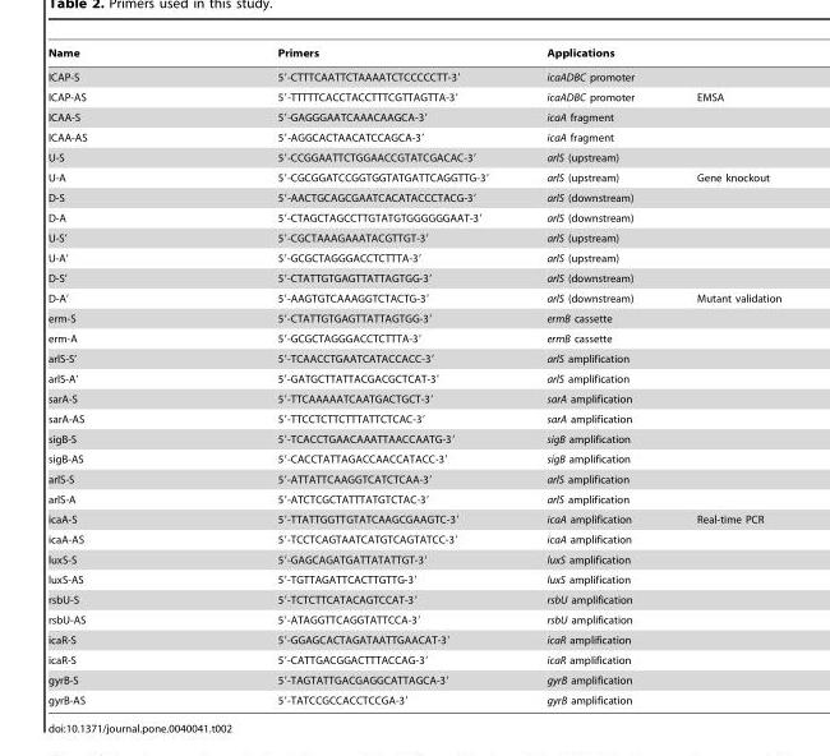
<table><thead><tr><td rowspan="2">Name ICAP-S</td><td rowspan="2">Primers 5′-CTTTCAATTCTAAAATCTCCCCCTT-3′</td><td colspan="2">Applications</td></tr><tr><td>icaADBC promoter</td><td></td></tr></thead><tbody><tr><td>ICAP-AS</td><td>5′-TTTTTCACCTACCTTTCGTTAGTTA-3′</td><td>icaADBC promoter</td><td>EMSA</td></tr><tr><td>ICAA-S</td><td>5′-GAGGGAATCAAACAAGCA-3′</td><td>icaA fragment</td><td></td></tr><tr><td>ICAA-AS</td><td>5′-AGGCACTAACATCCAGCA-3′</td><td>icaA fragment</td><td></td></tr><tr><td>U-S</td><td>5′-CCGGAATTCTGGAACCGTATCGACAC-3′</td><td>arlS (upstream)</td><td></td></tr><tr><td>U-A</td><td>5′-CGCGGATCCGGTGGTATGATTCAGGTTG-3′</td><td>arlS (upstream)</td><td>Gene knockout</td></tr><tr><td>D-S</td><td>5′-AACTGCAGCGAATCACATACCCTACG-3′</td><td>arlS (downstream)</td><td></td></tr><tr><td>D-A</td><td>5′-CTAGCTAGCCTTGTATGTGGGGGGAAT-3′</td><td>arlS (downstream)</td><td></td></tr><tr><td>U-S’</td><td>5′-CGCTAAAGAAATACGTTGT-3′</td><td>arlS (upstream)</td><td></td></tr><tr><td>U-A’</td><td>5′-GCGCTAGGGACCTCTTTA-3′</td><td>arlS (upstream)</td><td></td></tr><tr><td>D-S’</td><td>5′-CTATTGTGAGTTATTAGTGG-3′</td><td>arlS (downstream)</td><td></td></tr><tr><td>D-A’</td><td>5′-AAGTGTCAAAGGTCTACTG-3′</td><td>arlS (downstream)</td><td>Mutant validation</td></tr><tr><td>erm-S</td><td>5′-CTATTGTGAGTTATTAGTGG-3′</td><td>ermB cassette</td><td></td></tr><tr><td>erm-A</td><td>5′-GCGCTAGGGACCTCTTTA-3′</td><td>ermB cassette</td><td></td></tr><tr><td>arlS-S’</td><td>5′-TCAACCTGAATCATACCACC-3′</td><td>arlS amplification</td><td></td></tr><tr><td>arlS-A’</td><td>5′-GATGCTTATTACGACGCTCAT-3′</td><td>arlS amplification</td><td></td></tr><tr><td>sarA-S</td><td>5′-TTCAAAAATCAATGACTGCT-3′</td><td>sarA amplification</td><td></td></tr><tr><td>sarA-AS</td><td>5′-TTCCTCTTCTTTATTCTCAC-3′</td><td>sarA amplification</td><td></td></tr><tr><td>sigB-S</td><td>5′-TCACCTGAACAAATTAACCAATG-3′</td><td>sigB amplification</td><td></td></tr><tr><td>sigB-AS</td><td>5′-CACCTATTAGACCAACCATACC-3′</td><td>sigB amplification</td><td></td></tr><tr><td>arlS-S</td><td>5′-ATTATTCAAGGTCATCTCAA-3′</td><td>arlS amplification</td><td></td></tr><tr><td>arlS-A</td><td>5′-ATCTCGCTATTTATGTCTAC-3′</td><td>arlS amplification</td><td></td></tr><tr><td>icaA-S</td><td>5′-TTATTGGTTGTATCAAGCGAAGTC-3′</td><td>icaA amplification</td><td>Real-time PCR</td></tr><tr><td>icaA-AS</td><td>5′-TCCTCAGTAATCATGTCAGTATCC-3′</td><td>icaA amplification</td><td></td></tr><tr><td>luxS-S</td><td>5′-GAGCAGATGATTATATTGT-3′</td><td>luxS amplification</td><td></td></tr><tr><td>luxS-AS</td><td>5′-TGTTAGATTCACTTGTTG-3′</td><td>luxS amplification</td><td></td></tr><tr><td>rsbU-S</td><td>5′-TCTCTTCATACAGTCCAT-3′</td><td>rsbU amplification</td><td></td></tr><tr><td>rsbU-AS</td><td>5′-ATAGGTTCAGGTATTCCA-3′</td><td>rsbU amplification</td><td></td></tr><tr><td>icaR-S</td><td>5′-GGAGCACTAGATAATTGAACAT-3′</td><td>icaR amplification</td><td></td></tr><tr><td>icaR-S</td><td>5′-CATTGACGGACTTTACCAG-3′</td><td>icaR amplification</td><td></td></tr><tr><td>gyrB-S</td><td>5′-TAGTATTGACGAGGCATTAGCA-3′</td><td>gyrB amplification</td><td></td></tr><tr><td>gyrB-AS</td><td>5′-TATCCGCCACCTCCGA-3′</td><td>gyrB amplification</td><td></td></tr></tbody></table>